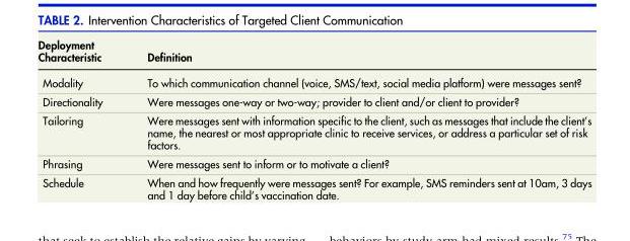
<table><thead><tr><td>Deployment Characteristic</td><td>Definition</td></tr></thead><tbody><tr><td>Modality</td><td>To which communication channel (voice, SMS/text, social media platform) were messages sent?</td></tr><tr><td>Directionality</td><td>Were messages one-way or two-way; provider to client and/or client to provider?</td></tr><tr><td>Tailoring</td><td>Were messages sent with information specific to the client, such as messages that include the client’s name, the nearest or most appropriate clinic to receive services, or address a particular set of risk factors.</td></tr><tr><td>Phrasing</td><td>Were messages sent to inform or to motivate a client?</td></tr><tr><td>Schedule</td><td>When and how frequently were messages sent? For example, SMS reminders sent at 10am, 3 days and 1 day before child’s vaccination date.</td></tr></tbody></table>